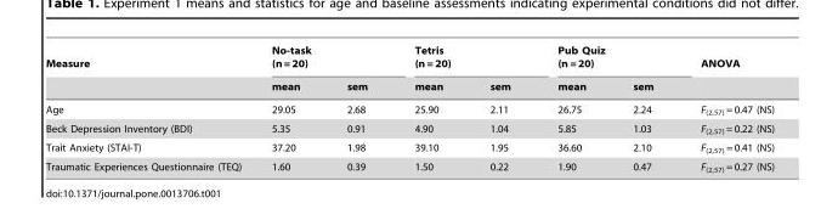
<table><thead><tr><td rowspan="2">Measure</td><td colspan="2">No-task (n = 20)</td><td colspan="2">Tetris (n = 20)</td><td colspan="2">Pub Quiz (n = 20)</td><td rowspan="2">ANOVA</td></tr><tr><td>mean</td><td>sem</td><td>mean</td><td>sem</td><td>mean</td><td>sem</td></tr></thead><tbody><tr><td>Age</td><td>29.05</td><td>2.68</td><td>25.90</td><td>2.11</td><td>26.75</td><td>2.24</td><td>F<sub>(2,57)</sub> = 0.47 (NS)</td></tr><tr><td>Beck Depression Inventory (BDI)</td><td>5.35</td><td>0.91</td><td>4.90</td><td>1.04</td><td>5.85</td><td>1.03</td><td>F<sub>(2,57)</sub> = 0.22 (NS)</td></tr><tr><td>Trait Anxiety (STAI-T)</td><td>37.20</td><td>1.98</td><td>39.10</td><td>1.95</td><td>36.60</td><td>2.10</td><td>F<sub>(2,57)</sub> = 0.41 (NS)</td></tr><tr><td>Traumatic Experiences Questionnaire (TEQ)</td><td>1.60</td><td>0.39</td><td>1.50</td><td>0.22</td><td>1.90</td><td>0.47</td><td>F<sub>(2,57)</sub> = 0.27 (NS)</td></tr></tbody></table>